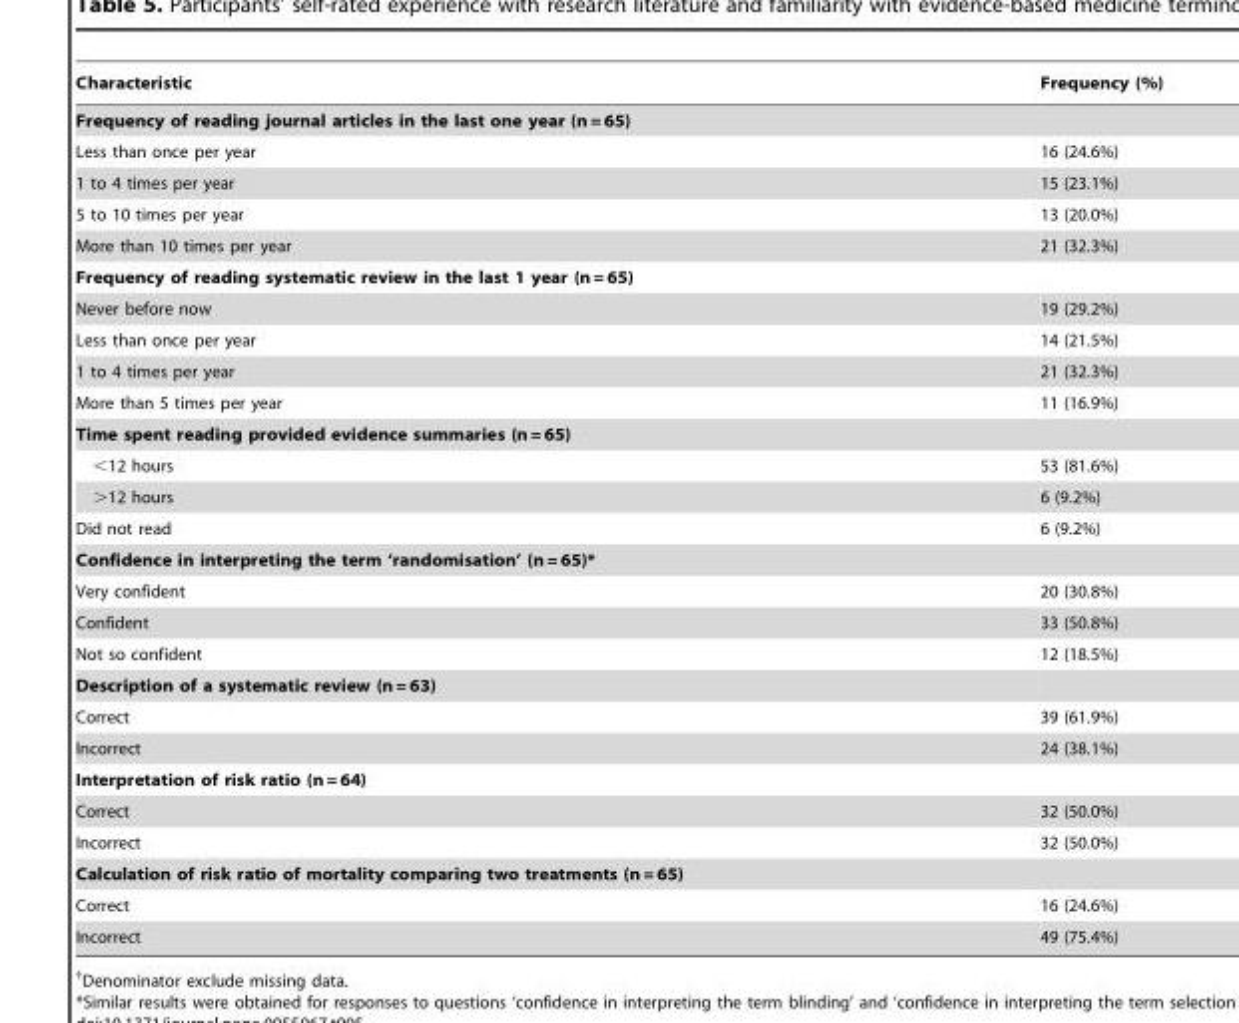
<table><thead><tr><td>Characteristic</td><td>Frequency (%)</td></tr></thead><tbody><tr><td colspan="2">Frequency of reading journal articles in the last one year (n = 65)</td></tr><tr><td>Less than once per year</td><td>16 (24.6%)</td></tr><tr><td>1 to 4 times per year</td><td>15 (23.1%)</td></tr><tr><td>5 to 10 times per year</td><td>13 (20.0%)</td></tr><tr><td>More than 10 times per year</td><td>21 (32.3%)</td></tr><tr><td colspan="2">Frequency of reading systematic review in the last 1 year (n = 65)</td></tr><tr><td>Never before now</td><td>19 (29.2%)</td></tr><tr><td>Less than once per year</td><td>14 (21.5%)</td></tr><tr><td>1 to 4 times per year</td><td>21 (32.3%)</td></tr><tr><td>More than 5 times per year</td><td>11 (16.9%)</td></tr><tr><td colspan="2">Time spent reading provided evidence summaries (n = 65)</td></tr><tr><td>&lt;12 hours</td><td>53 (81.6%)</td></tr><tr><td>&gt;12 hours</td><td>6 (9.2%)</td></tr><tr><td>Did not read</td><td>6 (9.2%)</td></tr><tr><td colspan="2">Confidence in interpreting the term ‘randomisation’ (n = 65)*</td></tr><tr><td>Very confident</td><td>20 (30.8%)</td></tr><tr><td>Confident</td><td>33 (50.8%)</td></tr><tr><td>Not so confident</td><td>12 (18.5%)</td></tr><tr><td colspan="2">Description of a systematic review (n = 63)</td></tr><tr><td>Correct</td><td>39 (61.9%)</td></tr><tr><td>Incorrect</td><td>24 (38.1%)</td></tr><tr><td colspan="2">Interpretation of risk ratio (n = 64)</td></tr><tr><td>Correct</td><td>32 (50.0%)</td></tr><tr><td>Incorrect</td><td>32 (50.0%)</td></tr><tr><td colspan="2">Calculation of risk ratio of mortality comparing two treatments (n = 65)</td></tr><tr><td>Correct</td><td>16 (24.6%)</td></tr><tr><td>Incorrect</td><td>49 (75.4%)</td></tr></tbody></table>